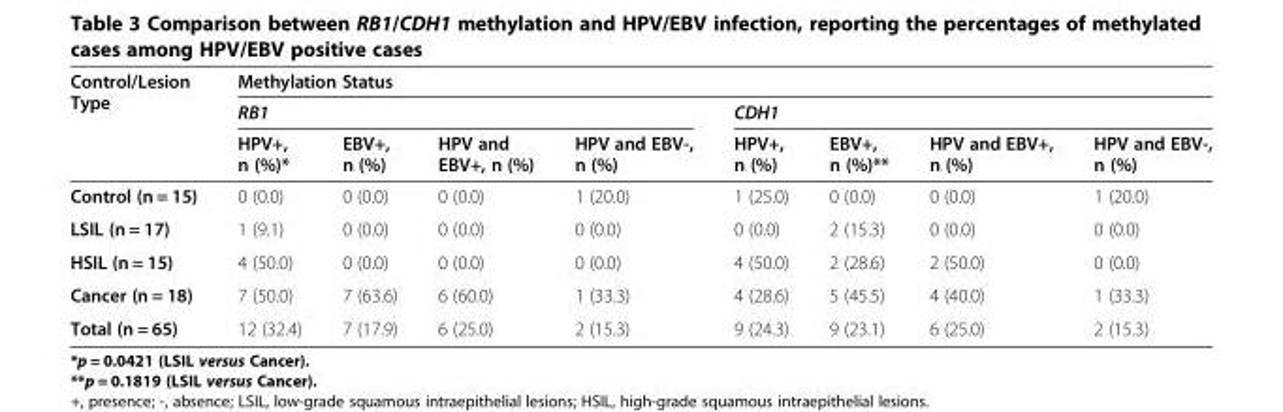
<table><thead><tr><td rowspan="3">Control/Lesion Type</td><td colspan="8">Methylation Status</td></tr><tr><td colspan="4">RB1</td><td colspan="4">CDH1</td></tr><tr><td>HPV+, n (%)*</td><td>EBV+, n (%)</td><td>HPV and EBV+, n (%)</td><td>HPV and EBV-, n (%)</td><td>HPV+, n (%)</td><td>EBV+, n (%)**</td><td>HPV and EBV+, n (%)</td><td>HPV and EBV-, n (%)</td></tr></thead><tbody><tr><td>Control (n = 15)</td><td>0 (0.0)</td><td>0 (0.0)</td><td>0 (0.0)</td><td>1 (20.0)</td><td>1 (25.0)</td><td>0 (0.0)</td><td>0 (0.0)</td><td>1 (20.0)</td></tr><tr><td>LSIL (n = 17)</td><td>1 (9.1)</td><td>0 (0.0)</td><td>0 (0.0)</td><td>0 (0.0)</td><td>0 (0.0)</td><td>2 (15.3)</td><td>0 (0.0)</td><td>0 (0.0)</td></tr><tr><td>HSIL (n = 15)</td><td>4 (50.0)</td><td>0 (0.0)</td><td>0 (0.0)</td><td>0 (0.0)</td><td>4 (50.0)</td><td>2 (28.6)</td><td>2 (50.0)</td><td>0 (0.0)</td></tr><tr><td>Cancer (n = 18)</td><td>7 (50.0)</td><td>7 (63.6)</td><td>6 (60.0)</td><td>1 (33.3)</td><td>4 (28.6)</td><td>5 (45.5)</td><td>4 (40.0)</td><td>1 (33.3)</td></tr><tr><td>Total (n = 65)</td><td>12 (32.4)</td><td>7 (17.9)</td><td>6 (25.0)</td><td>2 (15.3)</td><td>9 (24.3)</td><td>9 (23.1)</td><td>6 (25.0)</td><td>2 (15.3)</td></tr></tbody></table>